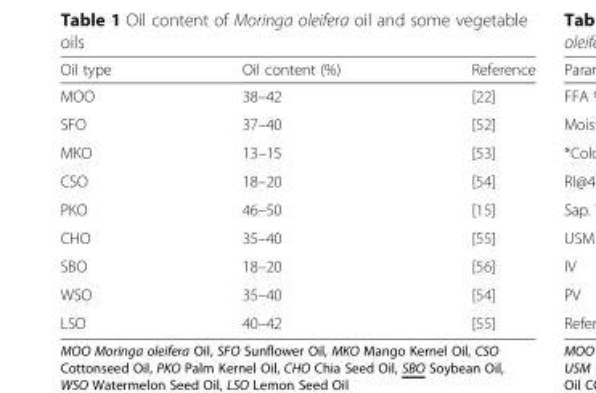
<table><thead><tr><td>Oil type</td><td>Oil content (%)</td><td>Reference</td></tr></thead><tbody><tr><td>MOO</td><td>38–42</td><td>[22]</td></tr><tr><td>SFO</td><td>37–40</td><td>[52]</td></tr><tr><td>MKO</td><td>13–15</td><td>[53]</td></tr><tr><td>CSO</td><td>18–20</td><td>[54]</td></tr><tr><td>PKO</td><td>46–50</td><td>[15]</td></tr><tr><td>CHO</td><td>35–40</td><td>[55]</td></tr><tr><td>SBO</td><td>18–20</td><td>[56]</td></tr><tr><td>WSO</td><td>35–40</td><td>[54]</td></tr><tr><td>LSO</td><td>40–42</td><td>[55]</td></tr></tbody></table>